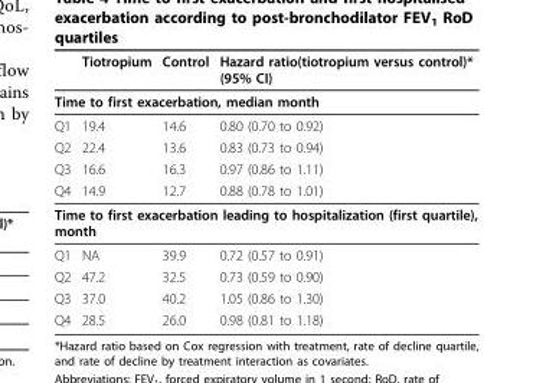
<table><thead><tr><td></td><td>Tiotropium</td><td>Control</td><td>Hazard ratio(tiotropium versus control)* (95% CI)</td></tr></thead><tbody><tr><td colspan="4">Time to first exacerbation, median month</td></tr><tr><td>Q1</td><td>19.4</td><td>14.6</td><td>0.80 (0.70 to 0.92)</td></tr><tr><td>Q2</td><td>22.4</td><td>13.6</td><td>0.83 (0.73 to 0.94)</td></tr><tr><td>Q3</td><td>16.6</td><td>16.3</td><td>0.97 (0.86 to 1.11)</td></tr><tr><td>Q4</td><td>14.9</td><td>12.7</td><td>0.88 (0.78 to 1.01)</td></tr><tr><td colspan="4">Time to first exacerbation leading to hospitalization (first quartile), month</td></tr><tr><td>Q1</td><td>NA</td><td>39.9</td><td>0.72 (0.57 to 0.91)</td></tr><tr><td>Q2</td><td>47.2</td><td>32.5</td><td>0.73 (0.59 to 0.90)</td></tr><tr><td>Q3</td><td>37.0</td><td>40.2</td><td>1.05 (0.86 to 1.30)</td></tr><tr><td>Q4</td><td>28.5</td><td>26.0</td><td>0.98 (0.81 to 1.18)</td></tr></tbody></table>